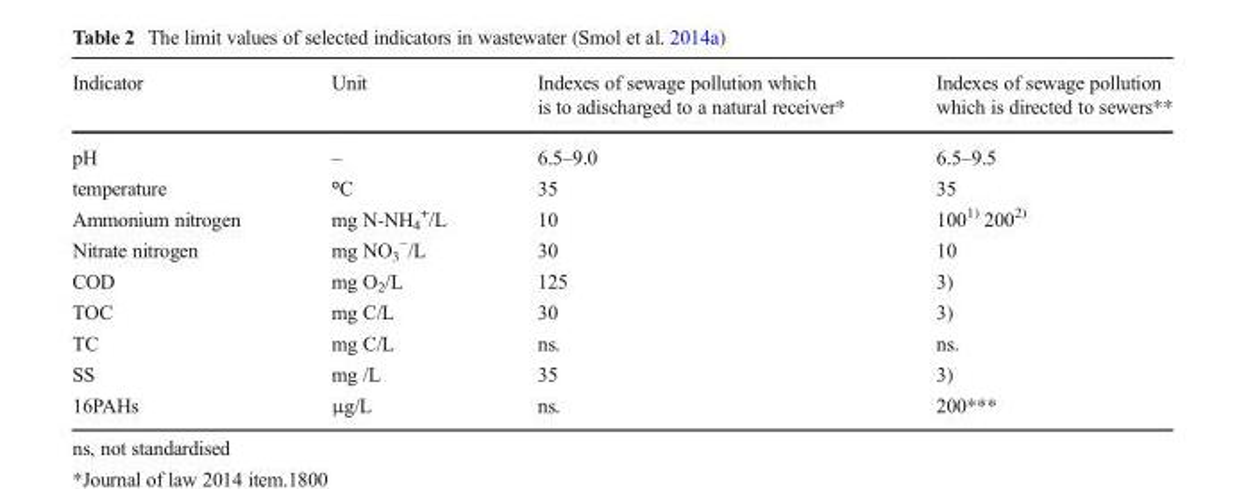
<table><thead><tr><td>Indicator</td><td>Unit</td><td>Indexes of sewage pollution which is to adischarged to a natural receiver*</td><td>Indexes of sewage pollution which is directed to sewers**</td></tr></thead><tbody><tr><td>pH</td><td>–</td><td>6.5–9.0</td><td>6.5–9.5</td></tr><tr><td>temperature</td><td>°C</td><td>35</td><td>35</td></tr><tr><td>Ammonium nitrogen</td><td>mg N-NH<sub>4</sub> <sup>+</sup>/L</td><td>10</td><td>100<sup>1)</sup> 200<sup>2)</sup></td></tr><tr><td>Nitrate nitrogen</td><td>mg NO<sub>3</sub> <sup>−</sup>/L</td><td>30</td><td>10</td></tr><tr><td>COD</td><td>mg O<sub>2</sub>/L</td><td>125</td><td>3)</td></tr><tr><td>TOC</td><td>mg C/L</td><td>30</td><td>3)</td></tr><tr><td>TC</td><td>mg C/L</td><td>ns.</td><td>ns.</td></tr><tr><td>SS</td><td>mg /L</td><td>35</td><td>3)</td></tr><tr><td>16PAHs</td><td>μg/L</td><td>ns.</td><td>200***</td></tr></tbody></table>